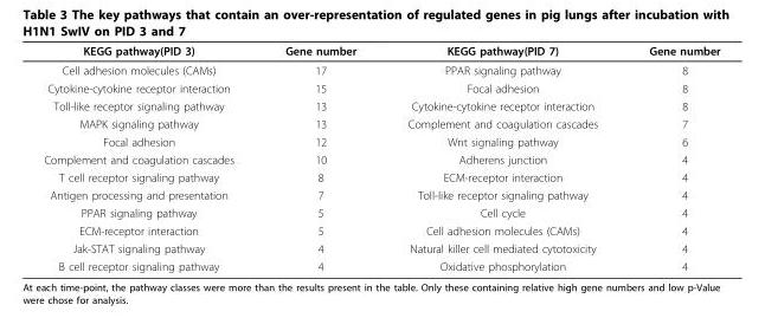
<table><thead><tr><td>KEGG pathway(PID 3)</td><td>Gene number</td><td>KEGG pathway(PID 7)</td><td>Gene number</td></tr></thead><tbody><tr><td>Cell adhesion molecules (CAMs)</td><td>17</td><td>PPAR signaling pathway</td><td>8</td></tr><tr><td>Cytokine-cytokine receptor interaction</td><td>15</td><td>Focal adhesion</td><td>8</td></tr><tr><td>Toll-like receptor signaling pathway</td><td>13</td><td>Cytokine-cytokine receptor interaction</td><td>8</td></tr><tr><td>MAPK signaling pathway</td><td>13</td><td>Complement and coagulation cascades</td><td>7</td></tr><tr><td>Focal adhesion</td><td>12</td><td>Wnt signaling pathway</td><td>6</td></tr><tr><td>Complement and coagulation cascades</td><td>10</td><td>Adherens junction</td><td>4</td></tr><tr><td>T cell receptor signaling pathway</td><td>8</td><td>ECM-receptor interaction</td><td>4</td></tr><tr><td>Antigen processing and presentation</td><td>7</td><td>Toll-like receptor signaling pathway</td><td>4</td></tr><tr><td>PPAR signaling pathway</td><td>5</td><td>Cell cycle</td><td>4</td></tr><tr><td>ECM-receptor interaction</td><td>5</td><td>Cell adhesion molecules (CAMs)</td><td>4</td></tr><tr><td>Jak-STAT signaling pathway</td><td>4</td><td>Natural killer cell mediated cytotoxicity</td><td>4</td></tr><tr><td>B cell receptor signaling pathway</td><td>4</td><td>Oxidative phosphorylation</td><td>4</td></tr></tbody></table>